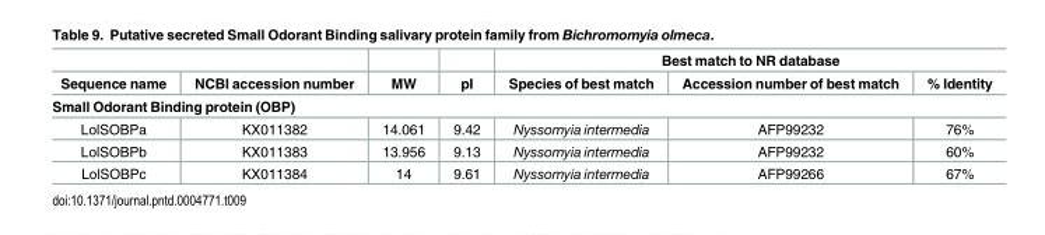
<table><thead><tr><td rowspan="2">Sequence name</td><td rowspan="2">NCBI accession number</td><td rowspan="2">MW</td><td rowspan="2">pI</td><td colspan="3">Best match to NR database</td></tr><tr><td>Species of best match</td><td>Accession number of best match</td><td>% Identity</td></tr><tr><td colspan="7">Small Odorant Binding protein (OBP)</td></tr></thead><tbody><tr><td>LolSOBPa</td><td>KX011382</td><td>14.061</td><td>9.42</td><td>Nyssomyia intermedia</td><td>AFP99232</td><td>76%</td></tr><tr><td>LolSOBPb</td><td>KX011383</td><td>13.956</td><td>9.13</td><td>Nyssomyia intermedia</td><td>AFP99232</td><td>60%</td></tr><tr><td>LolSOBPc</td><td>KX011384</td><td>14</td><td>9.61</td><td>Nyssomyia intermedia</td><td>AFP99266</td><td>67%</td></tr></tbody></table>